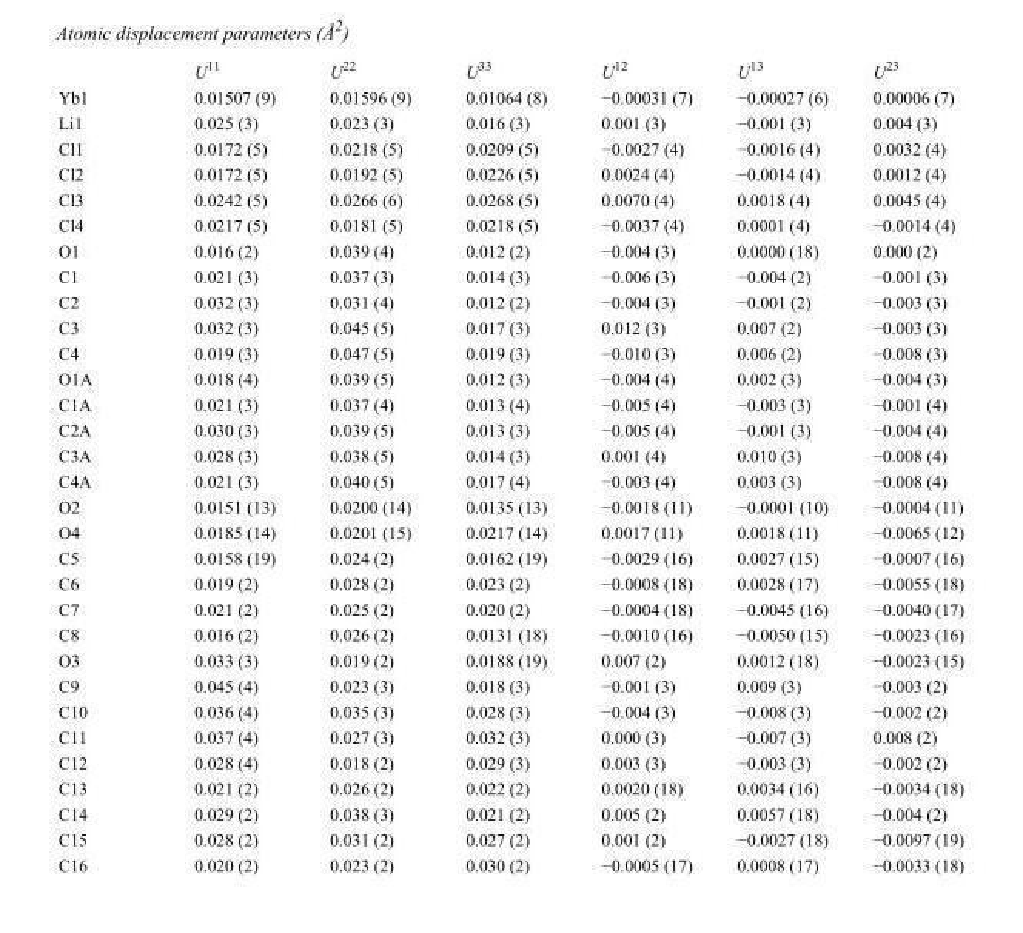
<table><thead><tr><td></td><td>U<sup>11</sup></td><td>U<sup>22</sup></td><td>U<sup>33</sup></td><td>U<sup>12</sup></td><td>U<sup>13</sup></td><td>U<sup>23</sup></td></tr></thead><tbody><tr><td>Yb1</td><td>0.01507 (9)</td><td>0.01596 (9)</td><td>0.01064 (8)</td><td>−0.00031 (7)</td><td>−0.00027 (6)</td><td>0.00006 (7)</td></tr><tr><td>Li1</td><td>0.025 (3)</td><td>0.023 (3)</td><td>0.016 (3)</td><td>0.001 (3)</td><td>−0.001 (3)</td><td>0.004 (3)</td></tr><tr><td>Cl1</td><td>0.0172 (5)</td><td>0.0218 (5)</td><td>0.0209 (5)</td><td>−0.0027 (4)</td><td>−0.0016 (4)</td><td>0.0032 (4)</td></tr><tr><td>Cl2</td><td>0.0172 (5)</td><td>0.0192 (5)</td><td>0.0226 (5)</td><td>0.0024 (4)</td><td>−0.0014 (4)</td><td>0.0012 (4)</td></tr><tr><td>Cl3</td><td>0.0242 (5)</td><td>0.0266 (6)</td><td>0.0268 (5)</td><td>0.0070 (4)</td><td>0.0018 (4)</td><td>0.0045 (4)</td></tr><tr><td>Cl4</td><td>0.0217 (5)</td><td>0.0181 (5)</td><td>0.0218 (5)</td><td>−0.0037 (4)</td><td>0.0001 (4)</td><td>−0.0014 (4)</td></tr><tr><td>O1</td><td>0.016 (2)</td><td>0.039 (4)</td><td>0.012 (2)</td><td>−0.004 (3)</td><td>0.0000 (18)</td><td>0.000 (2)</td></tr><tr><td>C1</td><td>0.021 (3)</td><td>0.037 (3)</td><td>0.014 (3)</td><td>−0.006 (3)</td><td>−0.004 (2)</td><td>−0.001 (3)</td></tr><tr><td>C2</td><td>0.032 (3)</td><td>0.031 (4)</td><td>0.012 (2)</td><td>−0.004 (3)</td><td>−0.001 (2)</td><td>−0.003 (3)</td></tr><tr><td>C3</td><td>0.032 (3)</td><td>0.045 (5)</td><td>0.017 (3)</td><td>0.012 (3)</td><td>0.007 (2)</td><td>−0.003 (3)</td></tr><tr><td>C4</td><td>0.019 (3)</td><td>0.047 (5)</td><td>0.019 (3)</td><td>−0.010 (3)</td><td>0.006 (2)</td><td>−0.008 (3)</td></tr><tr><td>O1A</td><td>0.018 (4)</td><td>0.039 (5)</td><td>0.012 (3)</td><td>−0.004 (4)</td><td>0.002 (3)</td><td>−0.004 (3)</td></tr><tr><td>C1A</td><td>0.021 (3)</td><td>0.037 (4)</td><td>0.013 (4)</td><td>−0.005 (4)</td><td>−0.003 (3)</td><td>−0.001 (4)</td></tr><tr><td>C2A</td><td>0.030 (3)</td><td>0.039 (5)</td><td>0.013 (3)</td><td>−0.005 (4)</td><td>−0.001 (3)</td><td>−0.004 (4)</td></tr><tr><td>C3A</td><td>0.028 (3)</td><td>0.038 (5)</td><td>0.014 (3)</td><td>0.001 (4)</td><td>0.010 (3)</td><td>−0.008 (4)</td></tr><tr><td>C4A</td><td>0.021 (3)</td><td>0.040 (5)</td><td>0.017 (4)</td><td>−0.003 (4)</td><td>0.003 (3)</td><td>−0.008 (4)</td></tr><tr><td>O2</td><td>0.0151 (13)</td><td>0.0200 (14)</td><td>0.0135 (13)</td><td>−0.0018 (11)</td><td>−0.0001 (10)</td><td>−0.0004 (11)</td></tr><tr><td>O4</td><td>0.0185 (14)</td><td>0.0201 (15)</td><td>0.0217 (14)</td><td>0.0017 (11)</td><td>0.0018 (11)</td><td>−0.0065 (12)</td></tr><tr><td>C5</td><td>0.0158 (19)</td><td>0.024 (2)</td><td>0.0162 (19)</td><td>−0.0029 (16)</td><td>0.0027 (15)</td><td>−0.0007 (16)</td></tr><tr><td>C6</td><td>0.019 (2)</td><td>0.028 (2)</td><td>0.023 (2)</td><td>−0.0008 (18)</td><td>0.0028 (17)</td><td>−0.0055 (18)</td></tr><tr><td>C7</td><td>0.021 (2)</td><td>0.025 (2)</td><td>0.020 (2)</td><td>−0.0004 (18)</td><td>−0.0045 (16)</td><td>−0.0040 (17)</td></tr><tr><td>C8</td><td>0.016 (2)</td><td>0.026 (2)</td><td>0.0131 (18)</td><td>−0.0010 (16)</td><td>−0.0050 (15)</td><td>−0.0023 (16)</td></tr><tr><td>O3</td><td>0.033 (3)</td><td>0.019 (2)</td><td>0.0188 (19)</td><td>0.007 (2)</td><td>0.0012 (18)</td><td>−0.0023 (15)</td></tr><tr><td>C9</td><td>0.045 (4)</td><td>0.023 (3)</td><td>0.018 (3)</td><td>−0.001 (3)</td><td>0.009 (3)</td><td>−0.003 (2)</td></tr><tr><td>C10</td><td>0.036 (4)</td><td>0.035 (3)</td><td>0.028 (3)</td><td>−0.004 (3)</td><td>−0.008 (3)</td><td>−0.002 (2)</td></tr><tr><td>C11</td><td>0.037 (4)</td><td>0.027 (3)</td><td>0.032 (3)</td><td>0.000 (3)</td><td>−0.007 (3)</td><td>0.008 (2)</td></tr><tr><td>C12</td><td>0.028 (4)</td><td>0.018 (2)</td><td>0.029 (3)</td><td>0.003 (3)</td><td>−0.003 (3)</td><td>−0.002 (2)</td></tr><tr><td>C13</td><td>0.021 (2)</td><td>0.026 (2)</td><td>0.022 (2)</td><td>0.0020 (18)</td><td>0.0034 (16)</td><td>−0.0034 (18)</td></tr><tr><td>C14</td><td>0.029 (2)</td><td>0.038 (3)</td><td>0.021 (2)</td><td>0.005 (2)</td><td>0.0057 (18)</td><td>−0.004 (2)</td></tr><tr><td>C15</td><td>0.028 (2)</td><td>0.031 (2)</td><td>0.027 (2)</td><td>0.001 (2)</td><td>−0.0027 (18)</td><td>−0.0097 (19)</td></tr><tr><td>C16</td><td>0.020 (2)</td><td>0.023 (2)</td><td>0.030 (2)</td><td>−0.0005 (17)</td><td>0.0008 (17)</td><td>−0.0033 (18)</td></tr></tbody></table>